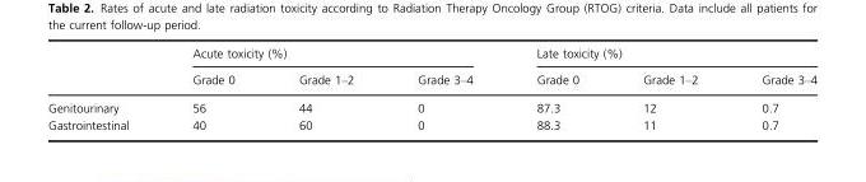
<table><thead><tr><td rowspan="2"></td><td colspan="3">Acute toxicity (%)</td><td colspan="3">Late toxicity (%)</td></tr><tr><td>Grade 0</td><td>Grade 1–2</td><td>Grade 3–4</td><td>Grade 0</td><td>Grade 1–2</td><td>Grade 3–4</td></tr></thead><tbody><tr><td>Genitourinary</td><td>56</td><td>44</td><td>0</td><td>87.3</td><td>12</td><td>0.7</td></tr><tr><td>Gastrointestinal</td><td>40</td><td>60</td><td>0</td><td>88.3</td><td>11</td><td>0.7</td></tr></tbody></table>